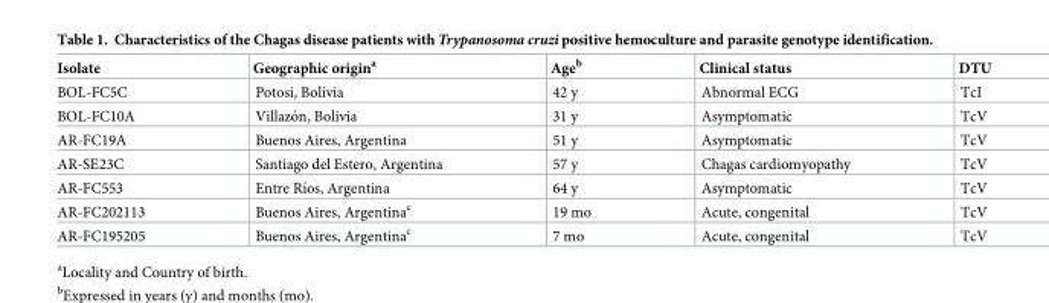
<table><thead><tr><td>Isolate</td><td>Geographic origin<sup>a</sup></td><td>Age<sup>b</sup></td><td>Clinical status</td><td>DTU</td></tr></thead><tbody><tr><td>BOL-FC5C</td><td>Potosi, Bolivia</td><td>42 y</td><td>Abnormal ECG</td><td>TcI</td></tr><tr><td>BOL-FC10A</td><td>Villazo´n, Bolivia</td><td>31 y</td><td>Asymptomatic</td><td>TcV</td></tr><tr><td>AR-FC19A</td><td>Buenos Aires, Argentina</td><td>51 y</td><td>Asymptomatic</td><td>TcV</td></tr><tr><td>AR-SE23C</td><td>Santiago del Estero, Argentina</td><td>57 y</td><td>Chagas cardiomyopathy</td><td>TcV</td></tr><tr><td>AR-FC553</td><td>Entre Rı´os, Argentina</td><td>64 y</td><td>Asymptomatic</td><td>TcV</td></tr><tr><td>AR-FC202113</td><td>Buenos Aires, Argentina<sup>c</sup></td><td>19 mo</td><td>Acute, congenital</td><td>TcV</td></tr><tr><td>AR-FC195205</td><td>Buenos Aires, Argentina<sup>c</sup></td><td>7 mo</td><td>Acute, congenital</td><td>TcV</td></tr></tbody></table>